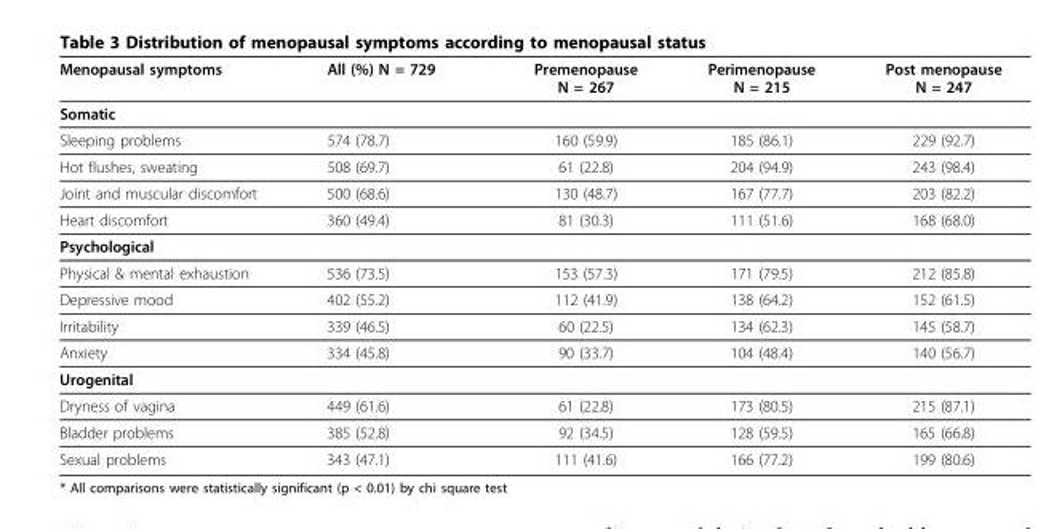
<table><thead><tr><td>Menopausal symptoms</td><td>All (%) N = 729</td><td>Premenopause N = 267</td><td>Perimenopause N = 215</td><td>Post menopause N = 247</td></tr></thead><tbody><tr><td colspan="5">Somatic</td></tr><tr><td>Sleeping problems</td><td>574 (78.7)</td><td>160 (59.9)</td><td>185 (86.1)</td><td>229 (92.7)</td></tr><tr><td>Hot flushes, sweating</td><td>508 (69.7)</td><td>61 (22.8)</td><td>204 (94.9)</td><td>243 (98.4)</td></tr><tr><td>Joint and muscular discomfort</td><td>500 (68.6)</td><td>130 (48.7)</td><td>167 (77.7)</td><td>203 (82.2)</td></tr><tr><td>Heart discomfort</td><td>360 (49.4)</td><td>81 (30.3)</td><td>111 (51.6)</td><td>168 (68.0)</td></tr><tr><td colspan="5">Psychological</td></tr><tr><td>Physical &amp; mental exhaustion</td><td>536 (73.5)</td><td>153 (57.3)</td><td>171 (79.5)</td><td>212 (85.8)</td></tr><tr><td>Depressive mood</td><td>402 (55.2)</td><td>112 (41.9)</td><td>138 (64.2)</td><td>152 (61.5)</td></tr><tr><td>Irritability</td><td>339 (46.5)</td><td>60 (22.5)</td><td>134 (62.3)</td><td>145 (58.7)</td></tr><tr><td>Anxiety</td><td>334 (45.8)</td><td>90 (33.7)</td><td>104 (48.4)</td><td>140 (56.7)</td></tr><tr><td colspan="5">Urogenital</td></tr><tr><td>Dryness of vagina</td><td>449 (61.6)</td><td>61 (22.8)</td><td>173 (80.5)</td><td>215 (87.1)</td></tr><tr><td>Bladder problems</td><td>385 (52.8)</td><td>92 (34.5)</td><td>128 (59.5)</td><td>165 (66.8)</td></tr><tr><td>Sexual problems</td><td>343 (47.1)</td><td>111 (41.6)</td><td>166 (77.2)</td><td>199 (80.6)</td></tr></tbody></table>